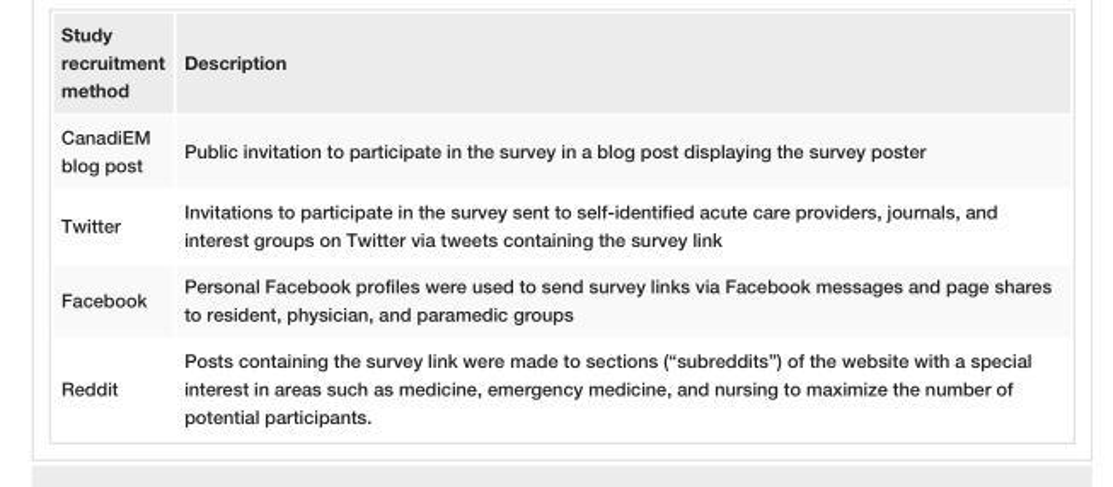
<table><tbody><tr><td>recruitment method</td><td>Description</td></tr><tr><td>CanadiEM blog post</td><td>Public invitation to participate in the survey in a blog post displaying the survey poster</td></tr><tr><td>Twitter</td><td>Invitations to participate in the survey sent to self-identified acute care providers, journals, and interest groups on Twitter via tweets containing the survey link</td></tr><tr><td>Facebook</td><td>Personal Facebook profiles were used to send survey links via Facebook messages and page shares to resident, physician, and paramedic groups</td></tr><tr><td>Reddit</td><td>Posts containing the survey link were made to sections (“subreddits”) of the website with a special interest in areas such as medicine, emergency medicine, and nursing to maximize the number of potential participants.</td></tr></tbody></table>